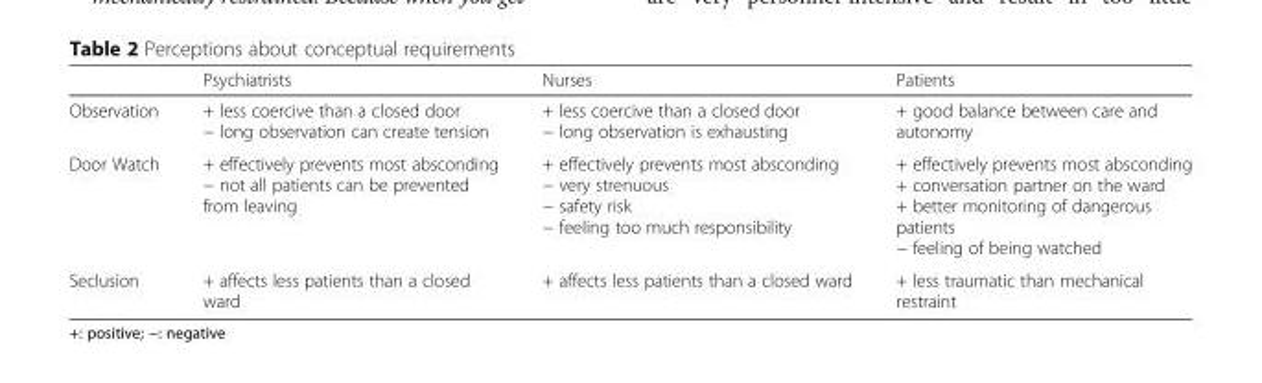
<table><thead><tr><td></td><td>Psychiatrists</td><td>Nurses</td><td>Patients</td></tr></thead><tbody><tr><td>Observation</td><td>+ less coercive than a closed door − long observation can create tension</td><td>+ less coercive than a closed door − long observation is exhausting</td><td>+ good balance between care and autonomy</td></tr><tr><td>Door Watch</td><td>+ effectively prevents most absconding − not all patients can be prevented from leaving</td><td>+ effectively prevents most absconding − very strenuous − safety risk − feeling too much responsibility</td><td>+ effectively prevents most absconding + conversation partner on the ward + better monitoring of dangerous patients − feeling of being watched</td></tr><tr><td>Seclusion</td><td>+ affects less patients than a closed ward</td><td>+ affects less patients than a closed ward</td><td>+ less traumatic than mechanical restraint</td></tr></tbody></table>